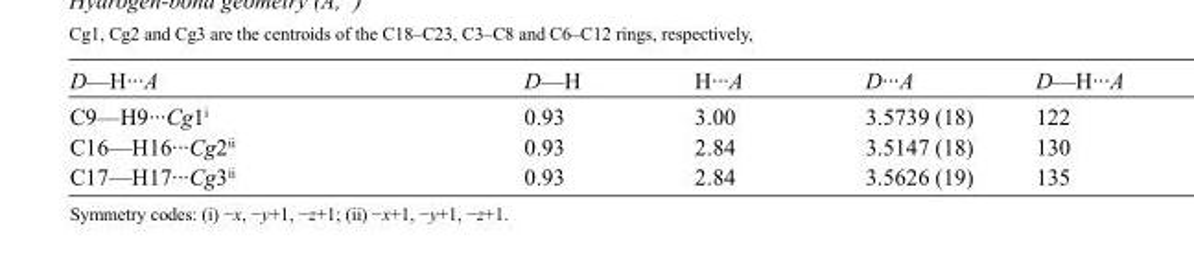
<table><tbody><tr><td>D—H···A</td><td>D—H</td><td>H···A</td><td>D···A</td><td>D—H···A</td></tr><tr><td>C9—H9···Cg1<sup>i</sup></td><td>0.93</td><td>3.00</td><td>3.5739 (18)</td><td>122</td></tr><tr><td>C16—H16···Cg2<sup>ii</sup></td><td>0.93</td><td>2.84</td><td>3.5147 (18)</td><td>130</td></tr><tr><td>C17—H17···Cg3<sup>ii</sup></td><td>0.93</td><td>2.84</td><td>3.5626 (19)</td><td>135</td></tr></tbody></table>